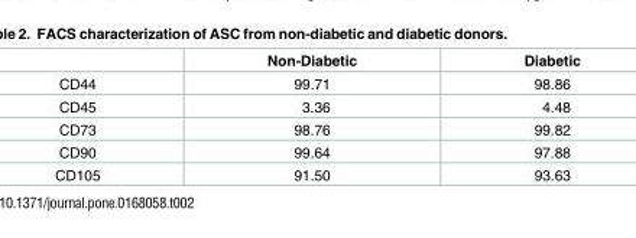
<table><thead><tr><td></td><td>Non-Diabetic</td><td>Diabetic</td></tr></thead><tbody><tr><td>CD44</td><td>99.71</td><td>98.86</td></tr><tr><td>CD45</td><td>3.36</td><td>4.48</td></tr><tr><td>CD73</td><td>98.76</td><td>99.82</td></tr><tr><td>CD90</td><td>99.64</td><td>97.88</td></tr><tr><td>CD105</td><td>91.50</td><td>93.63</td></tr></tbody></table>